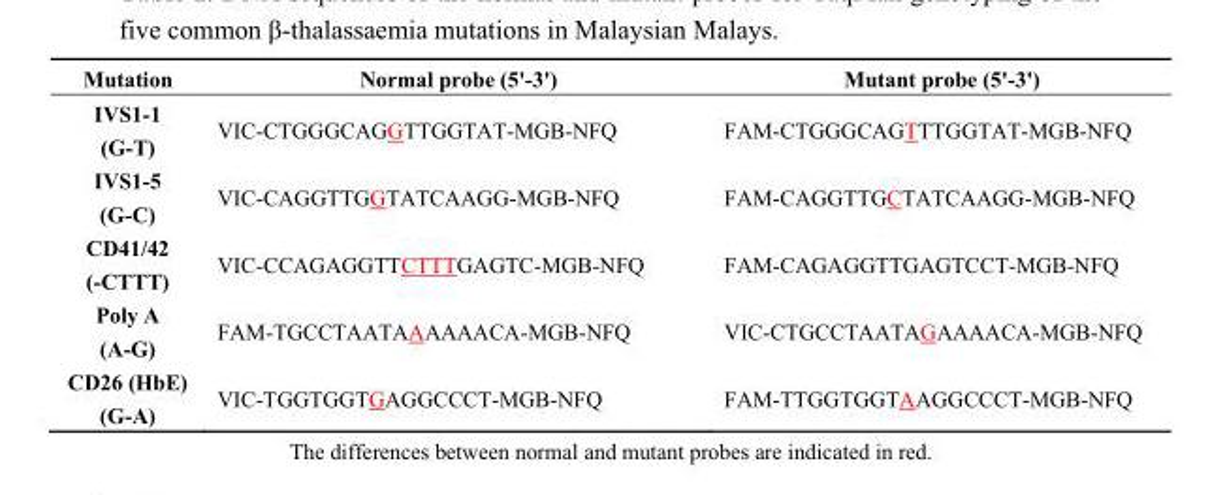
<table><thead><tr><td>Mutation</td><td>Normal probe (5&#x27;-3&#x27;)</td><td>Mutant probe (5&#x27;-3&#x27;)</td></tr></thead><tbody><tr><td>IVS1-1 (G-T)</td><td>VIC-CTGGGCAGGTTGGTAT-MGB-NFQ</td><td>FAM-CTGGGCAGTTTGGTAT-MGB-NFQ</td></tr><tr><td>IVS1-5 (G-C)</td><td>VIC-CAGGTTGGTATCAAGG-MGB-NFQ</td><td>FAM-CAGGTTGCTATCAAGG-MGB-NFQ</td></tr><tr><td>CD41/42 (-CTTT)</td><td>VIC-CCAGAGGTTCTTTGAGTC-MGB-NFQ</td><td>FAM-CAGAGGTTGAGTCCT-MGB-NFQ</td></tr><tr><td>Poly A (A-G)</td><td>FAM-TGCCTAATAAAAAACA-MGB-NFQ</td><td>VIC-CTGCCTAATAGAAAACA-MGB-NFQ</td></tr><tr><td>CD26 (HbE) (G-A)</td><td>VIC-TGGTGGTGAGGCCCT-MGB-NFQ</td><td>FAM-TTGGTGGTAAGGCCCT-MGB-NFQ</td></tr></tbody></table>